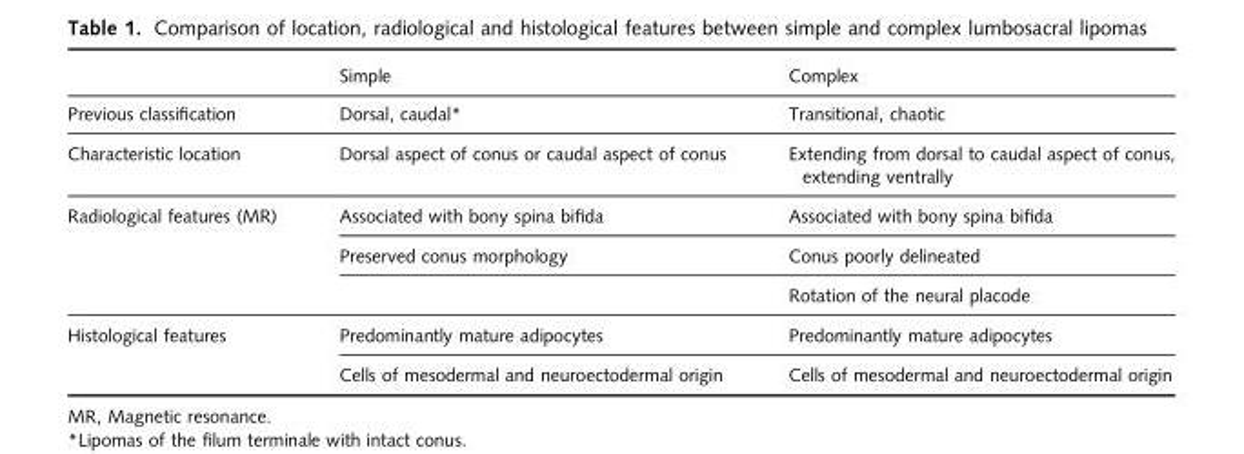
<table><thead><tr><td></td><td>Simple</td><td>Complex</td></tr></thead><tbody><tr><td>Previous classification</td><td>Dorsal, caudal*</td><td>Transitional, chaotic</td></tr><tr><td>Characteristic location</td><td>Dorsal aspect of conus or caudal aspect of conus</td><td>Extending from dorsal to caudal aspect of conus, extending ventrally</td></tr><tr><td rowspan="3">Radiological features (MR)</td><td>Associated with bony spina bifida</td><td>Associated with bony spina bifida</td></tr><tr><td>Preserved conus morphology</td><td>Conus poorly delineated</td></tr><tr><td></td><td>Rotation of the neural placode</td></tr><tr><td rowspan="2">Histological features</td><td>Predominantly mature adipocytes</td><td>Predominantly mature adipocytes</td></tr><tr><td>Cells of mesodermal and neuroectodermal origin</td><td>Cells of mesodermal and neuroectodermal origin</td></tr></tbody></table>